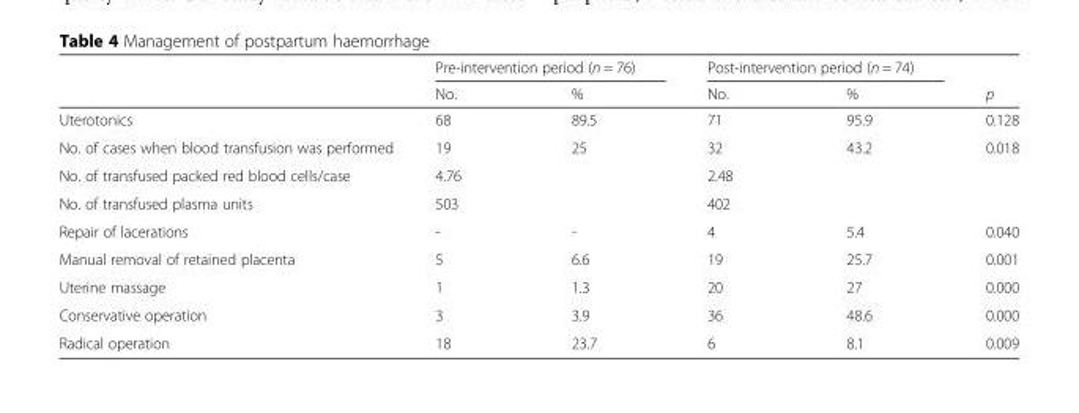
<table><thead><tr><td rowspan="2"></td><td colspan="2">Pre-intervention period (n = 76)</td><td colspan="2">Post-intervention period (n = 74)</td><td rowspan="2">p</td></tr><tr><td>No.</td><td>%</td><td>No.</td><td>%</td></tr></thead><tbody><tr><td>Uterotonics</td><td>68</td><td>89.5</td><td>71</td><td>95.9</td><td>0.128</td></tr><tr><td>No. of cases when blood transfusion was performed</td><td>19</td><td>25</td><td>32</td><td>43.2</td><td>0.018</td></tr><tr><td>No. of transfused packed red blood cells/case</td><td>4.76</td><td></td><td>2.48</td><td></td><td></td></tr><tr><td>No. of transfused plasma units</td><td>503</td><td></td><td>402</td><td></td><td></td></tr><tr><td>Repair of lacerations</td><td>-</td><td>-</td><td>4</td><td>5.4</td><td>0.040</td></tr><tr><td>Manual removal of retained placenta</td><td>5</td><td>6.6</td><td>19</td><td>25.7</td><td>0.001</td></tr><tr><td>Uterine massage</td><td>1</td><td>1.3</td><td>20</td><td>27</td><td>0.000</td></tr><tr><td>Conservative operation</td><td>3</td><td>3.9</td><td>36</td><td>48.6</td><td>0.000</td></tr><tr><td>Radical operation</td><td>18</td><td>23.7</td><td>6</td><td>8.1</td><td>0.009</td></tr></tbody></table>